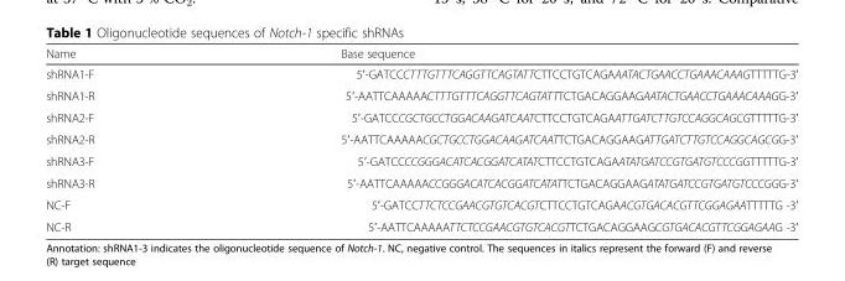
<table><thead><tr><td>Name</td><td>Base sequence</td></tr></thead><tbody><tr><td>shRNA1-F</td><td>5′-GATCCCTTTGTTTCAGGTTCAGTATTCTTCCTGTCAGAAATACTGAACCTGAAACAAAGTTTTTG-3′</td></tr><tr><td>shRNA1-R</td><td>5′-AATTCAAAAACTTTGTTTCAGGTTCAGTATTTCTGACAGGAAGAATACTGAACCTGAAACAAAGG-3′</td></tr><tr><td>shRNA2-F</td><td>5′-GATCCCGCTGCCTGGACAAGATCAATCTTCCTGTCAGAATTGATCTTGTCCAGGCAGCGTTTTTG-3′</td></tr><tr><td>shRNA2-R</td><td>5′-AATTCAAAAACGCTGCCTGGACAAGATCAATTCTGACAGGAAGATTGATCTTGTCCAGGCAGCGG-3′</td></tr><tr><td>shRNA3-F</td><td>5′-GATCCCCGGGACATCACGGATCATATCTTCCTGTCAGAATATGATCCGTGATGTCCCGGTTTTTG-3′</td></tr><tr><td>shRNA3-R</td><td>5′-AATTCAAAAACCGGGACATCACGGATCATATTCTGACAGGAAGATATGATCCGTGATGTCCCGGG-3′</td></tr><tr><td>NC-F</td><td>5′-GATCCTTCTCCGAACGTGTCACGTCTTCCTGTCAGAACGTGACACGTTCGGAGAATTTTTG -3′</td></tr><tr><td>NC-R</td><td>5′-AATTCAAAAATTCTCCGAACGTGTCACGTTCTGACAGGAAGCGTGACACGTTCGGAGAAG -3′</td></tr></tbody></table>